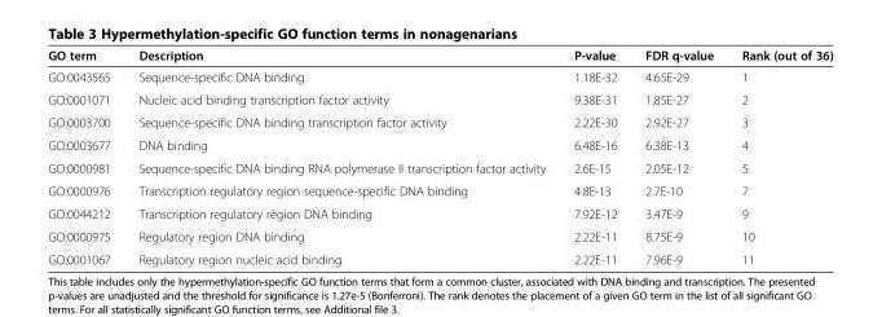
<table><thead><tr><td>GO term</td><td>Description</td><td>P-value</td><td>FDR q-value</td><td>Rank (out of 36)</td></tr></thead><tbody><tr><td>GO:0043565</td><td>Sequence-specific DNA binding</td><td>1.18E-32</td><td>4.65E-29</td><td>1</td></tr><tr><td>GO:0001071</td><td>Nucleic acid binding transcription factor activity</td><td>9.38E-31</td><td>1.85E-27</td><td>2</td></tr><tr><td>GO:0003700</td><td>Sequence-specific DNA binding transcription factor activity</td><td>2.22E-30</td><td>2.92E-27</td><td>3</td></tr><tr><td>GO:0003677</td><td>DNA binding</td><td>6.48E-16</td><td>6.38E-13</td><td>4</td></tr><tr><td>GO:0000981</td><td>Sequence-specific DNA binding RNA polymerase II transcription factor activity</td><td>2.6E-15</td><td>2.05E-12</td><td>5</td></tr><tr><td>GO:0000976</td><td>Transcription regulatory region sequence-specific DNA binding</td><td>4.8E-13</td><td>2.7E-10</td><td>7</td></tr><tr><td>GO:0044212</td><td>Transcription regulatory region DNA binding</td><td>7.92E-12</td><td>3.47E-9</td><td>9</td></tr><tr><td>GO:0000975</td><td>Regulatory region DNA binding</td><td>2.22E-11</td><td>8.75E-9</td><td>10</td></tr><tr><td>GO:0001067</td><td>Regulatory region nucleic acid binding</td><td>2.22E-11</td><td>7.96E-9</td><td>11</td></tr></tbody></table>